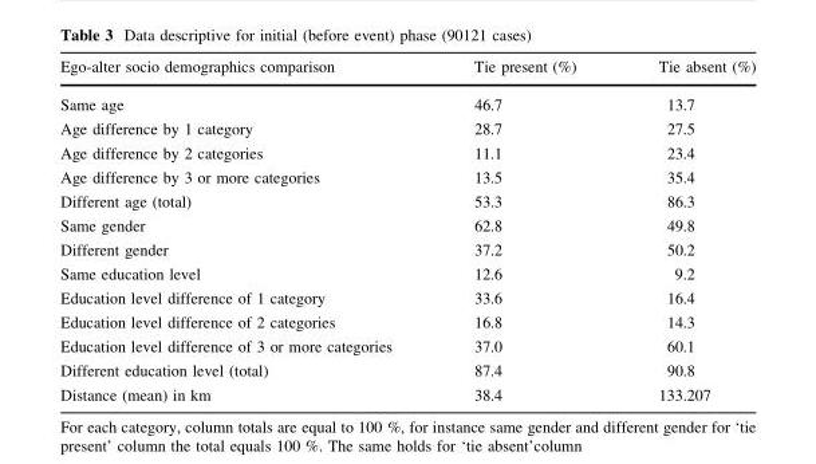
<table><thead><tr><td>Ego-alter socio demographics comparison</td><td>Tie present (%)</td><td>Tie absent (%)</td></tr></thead><tbody><tr><td>Same age</td><td>46.7</td><td>13.7</td></tr><tr><td>Age difference by 1 category</td><td>28.7</td><td>27.5</td></tr><tr><td>Age difference by 2 categories</td><td>11.1</td><td>23.4</td></tr><tr><td>Age difference by 3 or more categories</td><td>13.5</td><td>35.4</td></tr><tr><td>Different age (total)</td><td>53.3</td><td>86.3</td></tr><tr><td>Same gender</td><td>62.8</td><td>49.8</td></tr><tr><td>Different gender</td><td>37.2</td><td>50.2</td></tr><tr><td>Same education level</td><td>12.6</td><td>9.2</td></tr><tr><td>Education level difference of 1 category</td><td>33.6</td><td>16.4</td></tr><tr><td>Education level difference of 2 categories</td><td>16.8</td><td>14.3</td></tr><tr><td>Education level difference of 3 or more categories</td><td>37.0</td><td>60.1</td></tr><tr><td>Different education level (total)</td><td>87.4</td><td>90.8</td></tr><tr><td>Distance (mean) in km</td><td>38.4</td><td>133.207</td></tr></tbody></table>